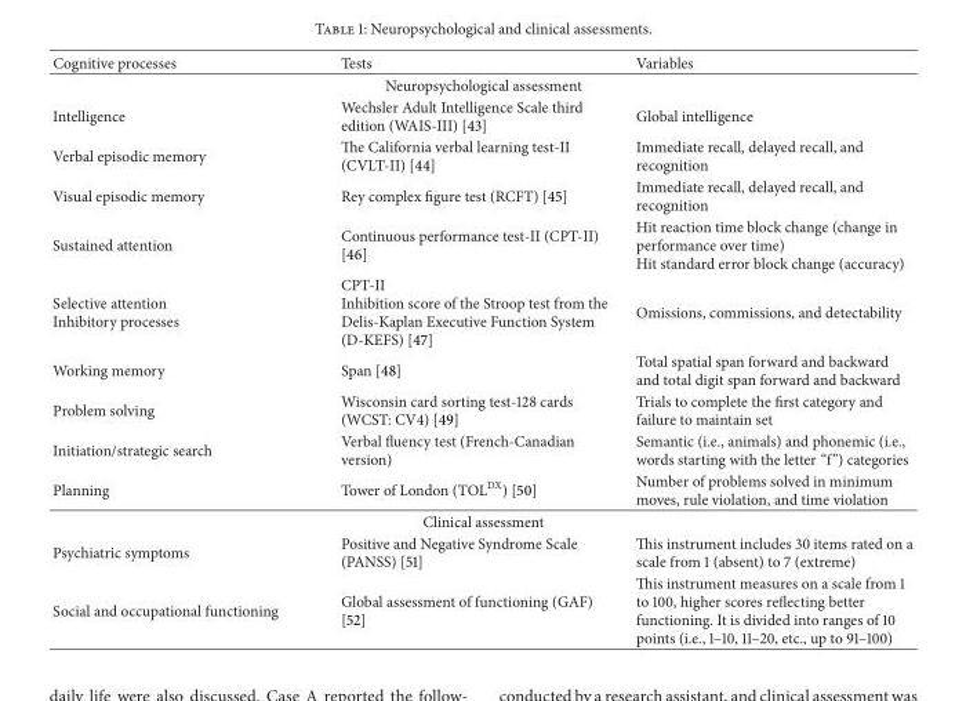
<table><thead><tr><td>Cognitive processes</td><td>Tests</td><td>Variables</td></tr></thead><tbody><tr><td colspan="3">Neuropsychological assessment</td></tr><tr><td>Intelligence</td><td>Wechsler Adult Intelligence Scale third edition (WAIS-III) [43]</td><td>Global intelligence</td></tr><tr><td>Verbal episodic memory</td><td>The California verbal learning test-II (CVLT-II) [44]</td><td>Immediate recall, delayed recall, and recognition</td></tr><tr><td>Visual episodic memory</td><td>Rey complex figure test (RCFT) [45]</td><td>Immediate recall, delayed recall, and recognition</td></tr><tr><td>Sustained attention</td><td>Continuous performance test-II (CPT-II) [46]</td><td>Hit reaction time block change (change in performance over time) Hit standard error block change (accuracy)</td></tr><tr><td>Selective attention Inhibitory processes</td><td>CPT-II Inhibition score of the Stroop test from the Delis-Kaplan Executive Function System (D-KEFS) [47]</td><td>Omissions, commissions, and detectability</td></tr><tr><td>Working memory</td><td>Span [48]</td><td>Total spatial span forward and backward and total digit span forward and backward</td></tr><tr><td>Problem solving</td><td>Wisconsin card sorting test-128 cards (WCST: CV4) [49]</td><td>Trials to complete the first category and failure to maintain set</td></tr><tr><td>Initiation/strategic search</td><td>Verbal fluency test (French-Canadian version)</td><td>Semantic (i.e., animals) and phonemic (i.e., words starting with the letter “f”) categories</td></tr><tr><td>Planning</td><td>Tower of London (TOL<sup>DX</sup>) [50]</td><td>Number of problems solved in minimum moves, rule violation, and time violation</td></tr><tr><td colspan="3">Clinical assessment</td></tr><tr><td>Psychiatric symptoms</td><td>Positive and Negative Syndrome Scale (PANSS) [51]</td><td>This instrument includes 30 items rated on a scale from 1 (absent) to 7 (extreme)</td></tr><tr><td>Social and occupational functioning</td><td>Global assessment of functioning (GAF) [52]</td><td>This instrument measures on a scale from 1 to 100, higher scores reflecting better functioning. It is divided into ranges of 10 points (i.e., 1–10, 11–20, etc., up to 91–100)</td></tr></tbody></table>